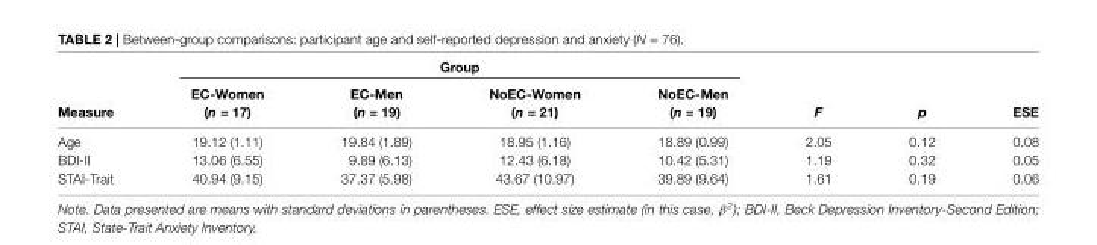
<table><thead><tr><td rowspan="2">Measure</td><td colspan="4">Group</td><td rowspan="2">F</td><td rowspan="2">p</td><td rowspan="2">ESE</td></tr><tr><td>EC-Women (n = 17)</td><td>EC-Men (n = 19)</td><td>NoEC-Women (n = 21)</td><td>NoEC-Men (n = 19)</td></tr></thead><tbody><tr><td>Age</td><td>19.12 (1.11)</td><td>19.84 (1.89)</td><td>18.95 (1.16)</td><td>18.89 (0.99)</td><td>2.05</td><td>0.12</td><td>0.08</td></tr><tr><td>BDI-II</td><td>13.06 (6.55)</td><td>9.89 (6.13)</td><td>12.43 (6.18)</td><td>10.42 (5.31)</td><td>1.19</td><td>0.32</td><td>0.05</td></tr><tr><td>STAI-Trait</td><td>40.94 (9.15)</td><td>37.37 (5.98)</td><td>43.67 (10.97)</td><td>39.89 (9.64)</td><td>1.61</td><td>0.19</td><td>0.06</td></tr></tbody></table>